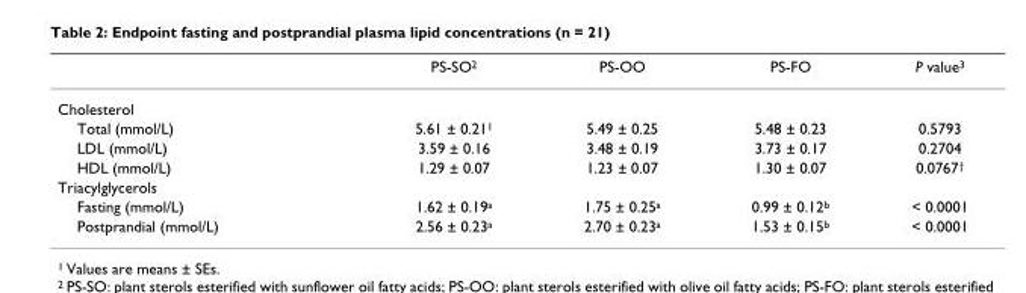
<table><thead><tr><td></td><td>PS-SO<sup>2</sup></td><td>PS-OO</td><td>PS-FO</td><td>P value<sup>3</sup></td></tr></thead><tbody><tr><td colspan="5">Cholesterol</td></tr><tr><td>Total (mmol/L)</td><td>5.61 ± 0.21<sup>1</sup></td><td>5.49 ± 0.25</td><td>5.48 ± 0.23</td><td>0.5793</td></tr><tr><td>LDL (mmol/L)</td><td>3.59 ± 0.16</td><td>3.48 ± 0.19</td><td>3.73 ± 0.17</td><td>0.2704</td></tr><tr><td>HDL (mmol/L)</td><td>1.29 ± 0.07</td><td>1.23 ± 0.07</td><td>1.30 ± 0.07</td><td>0.0767<sup>†</sup></td></tr><tr><td colspan="5">Triacylglycerols</td></tr><tr><td>Fasting (mmol/L)</td><td>1.62 ± 0.19<sup>a</sup></td><td>1.75 ± 0.25<sup>a</sup></td><td>0.99 ± 0.12<sup>b</sup></td><td>&lt; 0.0001</td></tr><tr><td>Postprandial (mmol/L)</td><td>2.56 ± 0.23<sup>a</sup></td><td>2.70 ± 0.23<sup>a</sup></td><td>1.53 ± 0.15<sup>b</sup></td><td>&lt; 0.0001</td></tr></tbody></table>